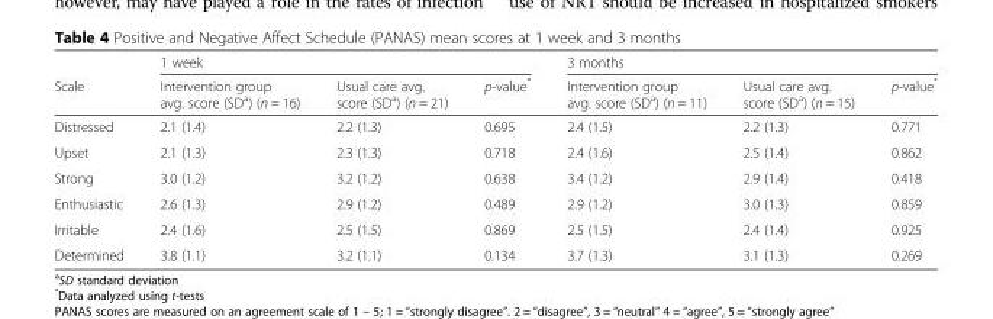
<table><thead><tr><td rowspan="2">Scale</td><td colspan="3">1 week</td><td colspan="3">3 months</td></tr><tr><td>Intervention group avg. score (SD<sup>a</sup>) (n = 16)</td><td>Usual care avg. score (SD<sup>a</sup>) (n = 21)</td><td>p-value*</td><td>Intervention group avg. score (SD<sup>a</sup>) (n = 11)</td><td>Usual care avg. score (SD<sup>a</sup>) (n = 15)</td><td>p-value*</td></tr></thead><tbody><tr><td>Distressed</td><td>2.1 (1.4)</td><td>2.2 (1.3)</td><td>0.695</td><td>2.4 (1.5)</td><td>2.2 (1.3)</td><td>0.771</td></tr><tr><td>Upset</td><td>2.1 (1.3)</td><td>2.3 (1.3)</td><td>0.718</td><td>2.4 (1.6)</td><td>2.5 (1.4)</td><td>0.862</td></tr><tr><td>Strong</td><td>3.0 (1.2)</td><td>3.2 (1.2)</td><td>0.638</td><td>3.4 (1.2)</td><td>2.9 (1.4)</td><td>0.418</td></tr><tr><td>Enthusiastic</td><td>2.6 (1.3)</td><td>2.9 (1.2)</td><td>0.489</td><td>2.9 (1.2)</td><td>3.0 (1.3)</td><td>0.859</td></tr><tr><td>Irritable</td><td>2.4 (1.6)</td><td>2.5 (1.5)</td><td>0.869</td><td>2.5 (1.5)</td><td>2.4 (1.4)</td><td>0.925</td></tr><tr><td>Determined</td><td>3.8 (1.1)</td><td>3.2 (1.1)</td><td>0.134</td><td>3.7 (1.3)</td><td>3.1 (1.3)</td><td>0.269</td></tr></tbody></table>